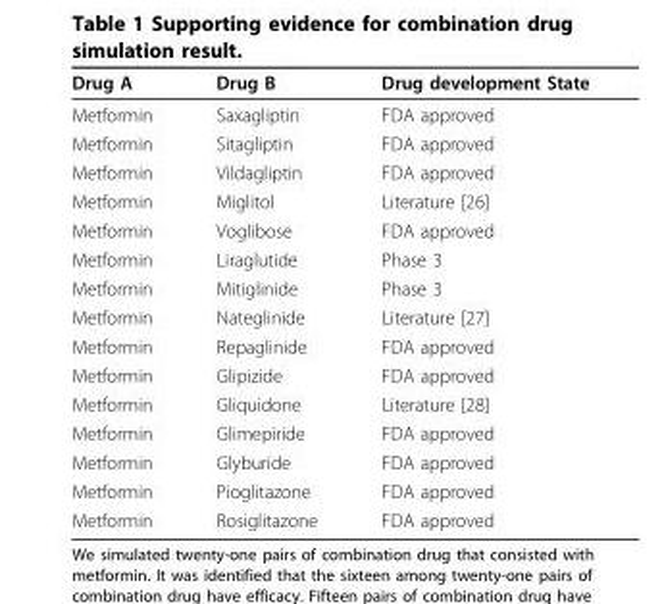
<table><thead><tr><td>Drug A</td><td>Drug B</td><td>Drug development State</td></tr></thead><tbody><tr><td>Metformin</td><td>Saxagliptin</td><td>FDA approved</td></tr><tr><td>Metformin</td><td>Sitagliptin</td><td>FDA approved</td></tr><tr><td>Metformin</td><td>Vildagliptin</td><td>FDA approved</td></tr><tr><td>Metformin</td><td>Miglitol</td><td>Literature [26]</td></tr><tr><td>Metformin</td><td>Voglibose</td><td>FDA approved</td></tr><tr><td>Metformin</td><td>Liraglutide</td><td>Phase 3</td></tr><tr><td>Metformin</td><td>Mitiglinide</td><td>Phase 3</td></tr><tr><td>Metformin</td><td>Nateglinide</td><td>Literature [27]</td></tr><tr><td>Metformin</td><td>Repaglinide</td><td>FDA approved</td></tr><tr><td>Metformin</td><td>Glipizide</td><td>FDA approved</td></tr><tr><td>Metformin</td><td>Gliquidone</td><td>Literature [28]</td></tr><tr><td>Metformin</td><td>Glimepiride</td><td>FDA approved</td></tr><tr><td>Metformin</td><td>Glyburide</td><td>FDA approved</td></tr><tr><td>Metformin</td><td>Pioglitazone</td><td>FDA approved</td></tr><tr><td>Metformin</td><td>Rosiglitazone</td><td>FDA approved</td></tr></tbody></table>